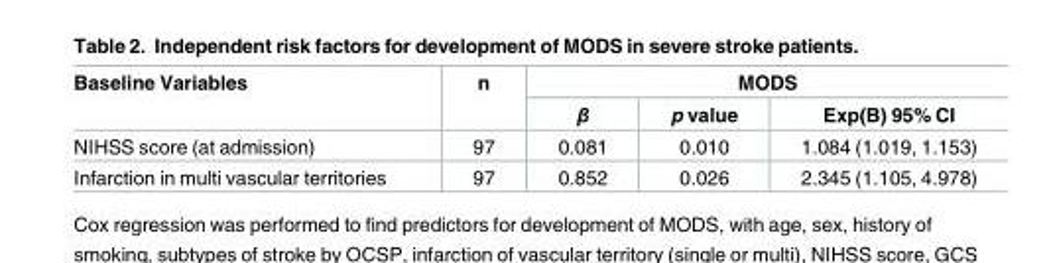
<table><thead><tr><td rowspan="2">Baseline Variables</td><td rowspan="2">n</td><td colspan="3">MODS</td></tr><tr><td>β</td><td>p value</td><td>Exp(B) 95% CI</td></tr></thead><tbody><tr><td>NIHSS score (at admission)</td><td>97</td><td>0.081</td><td>0.010</td><td>1.084 (1.019, 1.153)</td></tr><tr><td>Infarction in multi vascular territories</td><td>97</td><td>0.852</td><td>0.026</td><td>2.345 (1.105, 4.978)</td></tr></tbody></table>